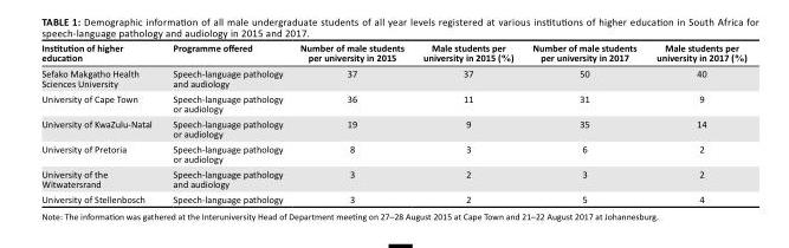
<table><thead><tr><td>Institution of higher education</td><td>Programme offered</td><td>Number of male students per university in 2015</td><td>Male students per university in 2015 (%)</td><td>Number of male students per university in 2017</td><td>Male students per university in 2017 (%)</td></tr></thead><tbody><tr><td>Sefako Makgatho Health Sciences University</td><td>Speech-language pathology and audiology</td><td>37</td><td>37</td><td>50</td><td>40</td></tr><tr><td>University of Cape Town</td><td>Speech-language pathology or audiology</td><td>36</td><td>11</td><td>31</td><td>9</td></tr><tr><td>University of KwaZulu-Natal</td><td>Speech-language pathology or audiology</td><td>19</td><td>9</td><td>35</td><td>14</td></tr><tr><td>University of Pretoria</td><td>Speech-language pathology or audiology</td><td>8</td><td>3</td><td>6</td><td>2</td></tr><tr><td>University of the Witwatersrand</td><td>Speech-language pathology and audiology</td><td>3</td><td>2</td><td>3</td><td>2</td></tr><tr><td>University of Stellenbosch</td><td>Speech-language pathology</td><td>3</td><td>2</td><td>5</td><td>4</td></tr></tbody></table>